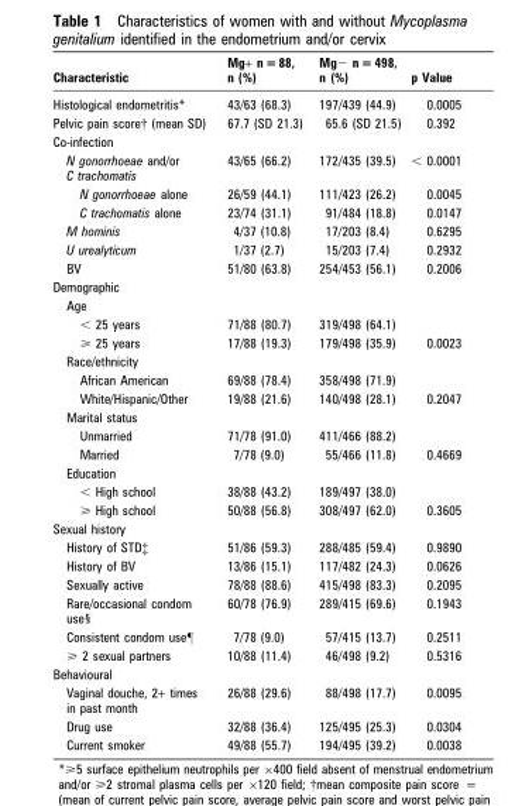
<table><thead><tr><td>Characteristic</td><td>Mg+ n = 88, n (%)</td><td>Mg− n = 498, n (%)</td><td>p Value</td></tr></thead><tbody><tr><td>Histological endometritis*</td><td>43/63 (68.3)</td><td>197/439 (44.9)</td><td>0.0005</td></tr><tr><td>Pelvic pain score† (mean SD)</td><td>67.7 (SD 21.3)</td><td>65.6 (SD 21.5)</td><td>0.392</td></tr><tr><td colspan="4">Co-infection</td></tr><tr><td>N gonorrhoeae and/or C trachomatis</td><td>43/65 (66.2)</td><td>172/435 (39.5)</td><td>&lt; 0.0001</td></tr><tr><td>N gonorrhoeae alone</td><td>26/59 (44.1)</td><td>111/423 (26.2)</td><td>0.0045</td></tr><tr><td>C trachomatis alone</td><td>23/74 (31.1)</td><td>91/484 (18.8)</td><td>0.0147</td></tr><tr><td>M hominis</td><td>4/37 (10.8)</td><td>17/203 (8.4)</td><td>0.6295</td></tr><tr><td>U urealyticum</td><td>1/37 (2.7)</td><td>15/203 (7.4)</td><td>0.2932</td></tr><tr><td>BV</td><td>51/80 (63.8)</td><td>254/453 (56.1)</td><td>0.2006</td></tr><tr><td colspan="4">Demographic</td></tr><tr><td colspan="4">Age</td></tr><tr><td>&lt; 25 years</td><td>71/88 (80.7)</td><td>319/498 (64.1)</td><td></td></tr><tr><td>&gt; 25 years</td><td>17/88 (19.3)</td><td>179/498 (35.9)</td><td>0.0023</td></tr><tr><td colspan="4">Race/ethnicity</td></tr><tr><td>African American</td><td>69/88 (78.4)</td><td>358/498 (71.9)</td><td></td></tr><tr><td>White/Hispanic/Other</td><td>19/88 (21.6)</td><td>140/498 (28.1)</td><td>0.2047</td></tr><tr><td colspan="4">Marital status</td></tr><tr><td>Unmarried</td><td>71/78 (91.0)</td><td>411/466 (88.2)</td><td></td></tr><tr><td>Married</td><td>7/78 (9.0)</td><td>55/466 (11.8)</td><td>0.4669</td></tr><tr><td colspan="4">Education</td></tr><tr><td>&lt; High school</td><td>38/88 (43.2)</td><td>189/497 (38.0)</td><td></td></tr><tr><td>&gt; High school</td><td>50/88 (56.8)</td><td>308/497 (62.0)</td><td>0.3605</td></tr><tr><td colspan="4">Sexual history</td></tr><tr><td>History of STD‡</td><td>51/86 (59.3)</td><td>288/485 (59.4)</td><td>0.9890</td></tr><tr><td>History of BV</td><td>13/86 (15.1)</td><td>117/482 (24.3)</td><td>0.0626</td></tr><tr><td>Sexually active</td><td>78/88 (88.6)</td><td>415/498 (83.3)</td><td>0.2095</td></tr><tr><td>Rare/occasional condom use§</td><td>60/78 (76.9)</td><td>289/415 (69.6)</td><td>0.1943</td></tr><tr><td>Consistent condom use¶</td><td>7/78 (9.0)</td><td>57/415 (13.7)</td><td>0.2511</td></tr><tr><td>&gt; 2 sexual partners</td><td>10/88 (11.4)</td><td>46/498 (9.2)</td><td>0.5316</td></tr><tr><td colspan="4">Behavioural</td></tr><tr><td>Vaginal douche, 2+ times in past month</td><td>26/88 (29.6)</td><td>88/498 (17.7)</td><td>0.0095</td></tr><tr><td>Drug use</td><td>32/88 (36.4)</td><td>125/495 (25.3)</td><td>0.0304</td></tr><tr><td>Current smoker</td><td>49/88 (55.7)</td><td>194/495 (39.2)</td><td>0.0038</td></tr></tbody></table>